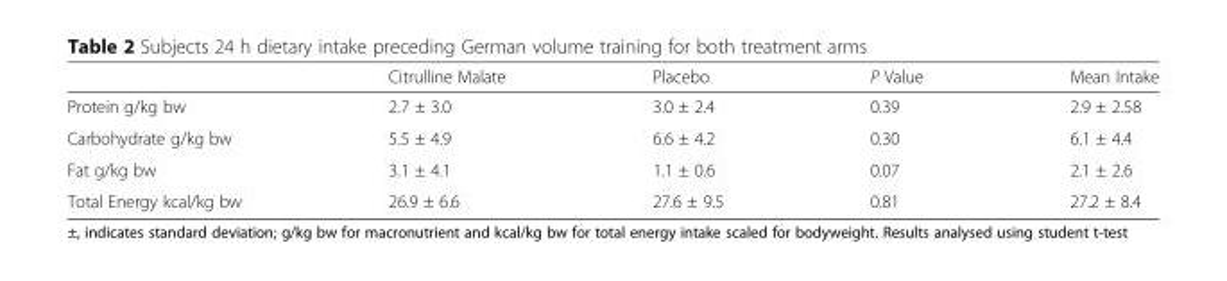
<table><thead><tr><td></td><td>Citrulline Malate</td><td>Placebo</td><td>P Value</td><td>Mean Intake</td></tr></thead><tbody><tr><td>Protein g/kg bw</td><td>2.7 ± 3.0</td><td>3.0 ± 2.4</td><td>0.39</td><td>2.9 ± 2.58</td></tr><tr><td>Carbohydrate g/kg bw</td><td>5.5 ± 4.9</td><td>6.6 ± 4.2</td><td>0.30</td><td>6.1 ± 4.4</td></tr><tr><td>Fat g/kg bw</td><td>3.1 ± 4.1</td><td>1.1 ± 0.6</td><td>0.07</td><td>2.1 ± 2.6</td></tr><tr><td>Total Energy kcal/kg bw</td><td>26.9 ± 6.6</td><td>27.6 ± 9.5</td><td>0.81</td><td>27.2 ± 8.4</td></tr></tbody></table>